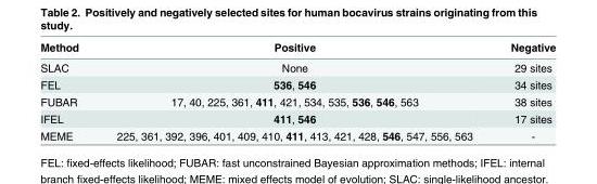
<table><thead><tr><td>Method</td><td>Positive</td><td>Negative</td></tr></thead><tbody><tr><td>SLAC</td><td>None</td><td>29 sites</td></tr><tr><td>FEL</td><td>536, 546</td><td>34 sites</td></tr><tr><td>FUBAR</td><td>17, 40, 225, 361, 411, 421, 534, 535, 536, 546, 563</td><td>38 sites</td></tr><tr><td>IFEL</td><td>411, 546</td><td>17 sites</td></tr><tr><td>MEME</td><td>225, 361, 392, 396, 401, 409, 410, 411, 413, 421, 428, 546, 547, 556, 563</td><td>-</td></tr></tbody></table>